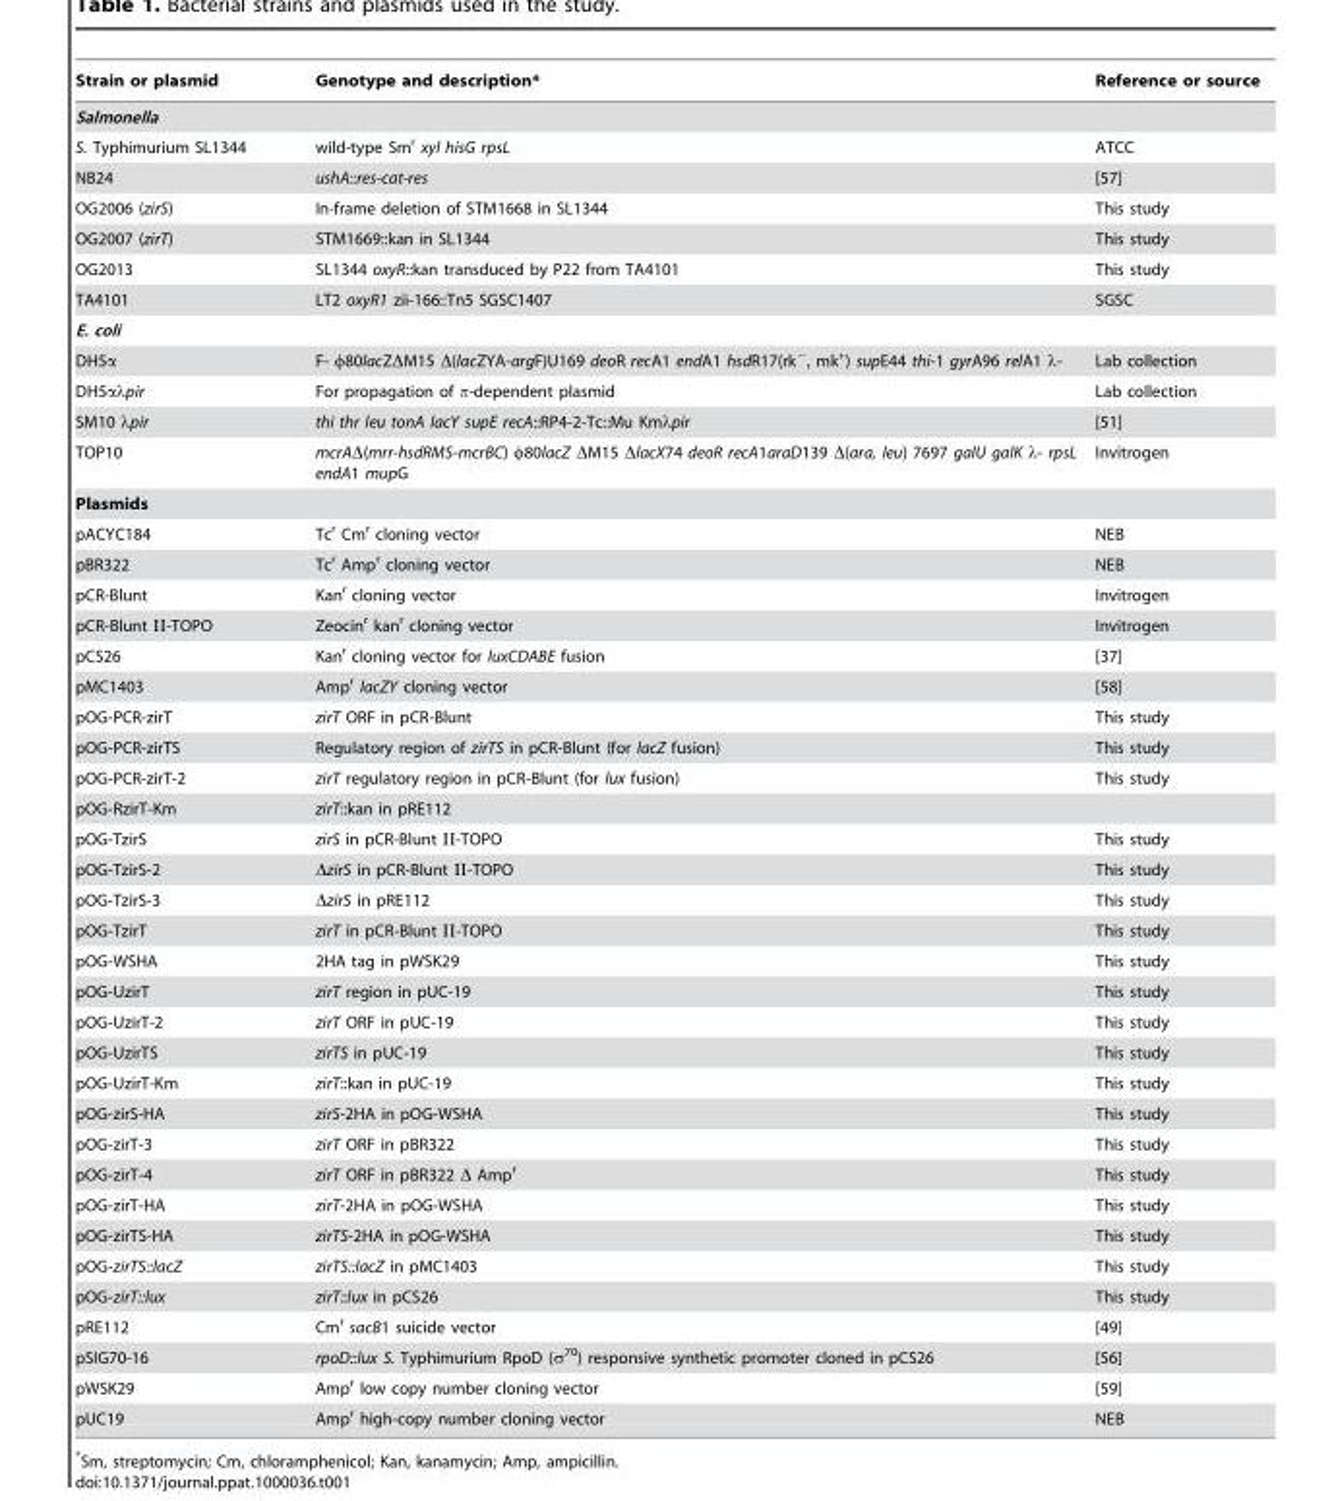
<table><thead><tr><td>Strain or plasmid</td><td>Genotype and description*</td><td>Reference or source</td></tr></thead><tbody><tr><td colspan="3">Salmonella</td></tr><tr><td>S. Typhimurium SL1344</td><td>wild-type Sm<sup>r</sup> xyl hisG rpsL</td><td>ATCC</td></tr><tr><td>NB24</td><td>ushA::res-cat-res</td><td>[57]</td></tr><tr><td>OG2006 (zirS)</td><td>In-frame deletion of STM1668 in SL1344</td><td>This study</td></tr><tr><td>OG2007 (zirT)</td><td>STM1669::kan in SL1344</td><td>This study</td></tr><tr><td>OG2013</td><td>SL1344 oxyR::kan transduced by P22 from TA4101</td><td>This study</td></tr><tr><td>TA4101</td><td>LT2 oxyR1 zii-166::Tn5 SGSC1407</td><td>SGSC</td></tr><tr><td colspan="3">E. coli</td></tr><tr><td>DH5α</td><td>F- φ80lacZΔM15 Δ(lacZYA-argF)U169 deoR recA1 endA1 hsdR17(rk<sup>−</sup>, mk<sup>+</sup>) supE44 thi-1 gyrA96 relA1 λ-</td><td>Lab collection</td></tr><tr><td>DH5αλpir</td><td>For propagation of π-dependent plasmid</td><td>Lab collection</td></tr><tr><td>SM10 λpir</td><td>thi thr leu tonA lacY supE recA::RP4-2-Tc::Mu Kmλpir</td><td>[51]</td></tr><tr><td>TOP10</td><td>mcrAΔ(mrr-hsdRMS-mcrBC) φ80lacZ ΔM15 ΔlacX74 deoR recA1araD139 Δ(ara, leu) 7697 galU galK λ- rpsL endA1 mupG</td><td>Invitrogen</td></tr><tr><td colspan="3">Plasmids</td></tr><tr><td>pACYC184</td><td>Tc<sup>r</sup> Cm<sup>r</sup> cloning vector</td><td>NEB</td></tr><tr><td>pBR322</td><td>Tc<sup>r</sup> Amp<sup>r</sup> cloning vector</td><td>NEB</td></tr><tr><td>pCR-Blunt</td><td>Kan<sup>r</sup> cloning vector</td><td>Invitrogen</td></tr><tr><td>pCR-Blunt II-TOPO</td><td>Zeocin<sup>r</sup> kan<sup>r</sup> cloning vector</td><td>Invitrogen</td></tr><tr><td>pCS26</td><td>Kan<sup>r</sup> cloning vector for luxCDABE fusion</td><td>[37]</td></tr><tr><td>pMC1403</td><td>Amp<sup>r</sup> lacZY cloning vector</td><td>[58]</td></tr><tr><td>pOG-PCR-zirT</td><td>zirT ORF in pCR-Blunt</td><td>This study</td></tr><tr><td>pOG-PCR-zirTS</td><td>Regulatory region of zirTS in pCR-Blunt (for lacZ fusion)</td><td>This study</td></tr><tr><td>pOG-PCR-zirT-2</td><td>zirT regulatory region in pCR-Blunt (for lux fusion)</td><td>This study</td></tr><tr><td>pOG-RzirT-Km</td><td>zirT::kan in pRE112</td><td></td></tr><tr><td>pOG-TzirS</td><td>zirS in pCR-Blunt II-TOPO</td><td>This study</td></tr><tr><td>pOG-TzirS-2</td><td>ΔzirS in pCR-Blunt II-TOPO</td><td>This study</td></tr><tr><td>pOG-TzirS-3</td><td>ΔzirS in pRE112</td><td>This study</td></tr><tr><td>pOG-TzirT</td><td>zirT in pCR-Blunt II-TOPO</td><td>This study</td></tr><tr><td>pOG-WSHA</td><td>2HA tag in pWSK29</td><td>This study</td></tr><tr><td>pOG-UzirT</td><td>zirT region in pUC-19</td><td>This study</td></tr><tr><td>pOG-UzirT-2</td><td>zirT ORF in pUC-19</td><td>This study</td></tr><tr><td>pOG-UzirTS</td><td>zirTS in pUC-19</td><td>This study</td></tr><tr><td>pOG-UzirT-Km</td><td>zirT::kan in pUC-19</td><td>This study</td></tr><tr><td>pOG-zirS-HA</td><td>zirS-2HA in pOG-WSHA</td><td>This study</td></tr><tr><td>pOG-zirT-3</td><td>zirT ORF in pBR322</td><td>This study</td></tr><tr><td>pOG-zirT-4</td><td>zirT ORF in pBR322 Δ Amp<sup>r</sup></td><td>This study</td></tr><tr><td>pOG-zirT-HA</td><td>zirT-2HA in pOG-WSHA</td><td>This study</td></tr><tr><td>pOG-zirTS-HA</td><td>zirTS-2HA in pOG-WSHA</td><td>This study</td></tr><tr><td>pOG-zirTS::lacZ</td><td>zirTS::lacZ in pMC1403</td><td>This study</td></tr><tr><td>pOG-zirT::lux</td><td>zirT::lux in pCS26</td><td>This study</td></tr><tr><td>pRE112</td><td>Cm<sup>r</sup> sacB1 suicide vector</td><td>[49]</td></tr><tr><td>pSIG70-16</td><td>rpoD::lux S. Typhimurium RpoD (σ<sup>70</sup>) responsive synthetic promoter cloned in pCS26</td><td>[56]</td></tr><tr><td>pWSK29</td><td>Amp<sup>r</sup> low copy number cloning vector</td><td>[59]</td></tr><tr><td>pUC19</td><td>Amp<sup>r</sup> high-copy number cloning vector</td><td>NEB</td></tr></tbody></table>